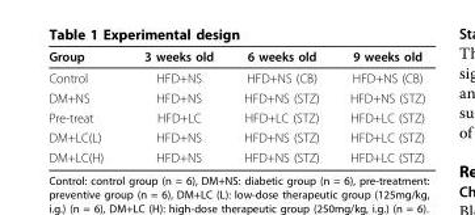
<table><thead><tr><td>Group</td><td>3 weeks old</td><td>6 weeks old</td><td>9 weeks old</td></tr></thead><tbody><tr><td>Control</td><td>HFD+NS</td><td>HFD+NS (CB)</td><td>HFD+NS (CB)</td></tr><tr><td>DM+NS</td><td>HFD+NS</td><td>HFD+NS (STZ)</td><td>HFD+NS (STZ)</td></tr><tr><td>Pre-treat</td><td>HFD+LC</td><td>HFD+LC (STZ)</td><td>HFD+LC (STZ)</td></tr><tr><td>DM+LC(L)</td><td>HFD+NS</td><td>HFD+NS (STZ)</td><td>HFD+LC (STZ)</td></tr><tr><td>DM+LC(H)</td><td>HFD+NS</td><td>HFD+NS (STZ)</td><td>HFD+LC (STZ)</td></tr></tbody></table>